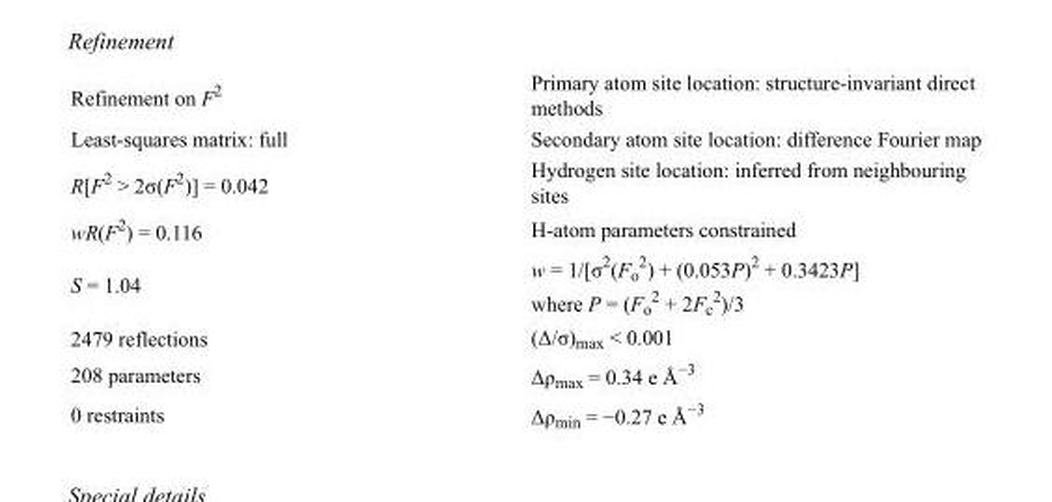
<table><tbody><tr><td>Refinement on F<sup>2</sup></td><td>Primary atom site location: structure-invariant direct methods</td></tr><tr><td>Least-squares matrix: full</td><td>Secondary atom site location: difference Fourier map</td></tr><tr><td>R[F<sup>2</sup> &gt; 2σ(F<sup>2</sup>)] = 0.042</td><td>Hydrogen site location: inferred from neighbouring sites</td></tr><tr><td>wR(F<sup>2</sup>) = 0.116</td><td>H-atom parameters constrained</td></tr><tr><td>S = 1.04</td><td>w = 1/[σ<sup>2</sup>(F<sub>o</sub> <sup>2</sup>) + (0.053P)<sup>2</sup> + 0.3423P] where P = (F<sub>o</sub> <sup>2</sup> + 2F<sub>c</sub> <sup>2</sup>)/3</td></tr><tr><td>2479 reflections</td><td>(Δ/σ)<sub>max</sub> &lt; 0.001</td></tr><tr><td>208 parameters</td><td>Δρ<sub>max</sub> = 0.34 e Å<sup>−3</sup></td></tr><tr><td>0 restraints</td><td>Δρ<sub>min</sub> = −0.27 e Å<sup>−3</sup></td></tr></tbody></table>